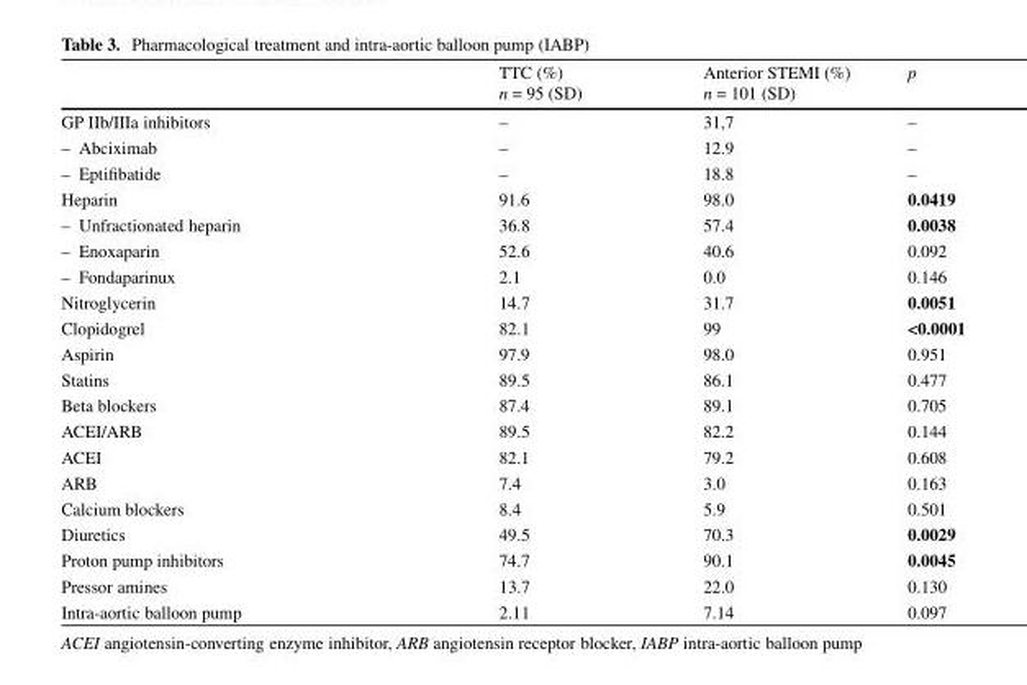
<table><thead><tr><td></td><td>TTC (%) n = 95 (SD)</td><td>Anterior STEMI (%) n = 101 (SD)</td><td>p</td></tr></thead><tbody><tr><td>GP IIb/IIIa inhibitors</td><td>–</td><td>31,7</td><td>–</td></tr><tr><td>– Abciximab</td><td>–</td><td>12.9</td><td>–</td></tr><tr><td>– Eptifibatide</td><td>–</td><td>18.8</td><td>–</td></tr><tr><td>Heparin</td><td>91.6</td><td>98.0</td><td>0.0419</td></tr><tr><td>– Unfractionated heparin</td><td>36.8</td><td>57.4</td><td>0.0038</td></tr><tr><td>– Enoxaparin</td><td>52.6</td><td>40.6</td><td>0.092</td></tr><tr><td>– Fondaparinux</td><td>2.1</td><td>0.0</td><td>0.146</td></tr><tr><td>Nitroglycerin</td><td>14.7</td><td>31.7</td><td>0.0051</td></tr><tr><td>Clopidogrel</td><td>82.1</td><td>99</td><td>&lt;0.0001</td></tr><tr><td>Aspirin</td><td>97.9</td><td>98.0</td><td>0.951</td></tr><tr><td>Statins</td><td>89.5</td><td>86.1</td><td>0.477</td></tr><tr><td>Beta blockers</td><td>87.4</td><td>89.1</td><td>0.705</td></tr><tr><td>ACEI/ARB</td><td>89.5</td><td>82.2</td><td>0.144</td></tr><tr><td>ACEI</td><td>82.1</td><td>79.2</td><td>0.608</td></tr><tr><td>ARB</td><td>7.4</td><td>3.0</td><td>0.163</td></tr><tr><td>Calcium blockers</td><td>8.4</td><td>5.9</td><td>0.501</td></tr><tr><td>Diuretics</td><td>49.5</td><td>70.3</td><td>0.0029</td></tr><tr><td>Proton pump inhibitors</td><td>74.7</td><td>90.1</td><td>0.0045</td></tr><tr><td>Pressor amines</td><td>13.7</td><td>22.0</td><td>0.130</td></tr><tr><td>Intra-aortic balloon pump</td><td>2.11</td><td>7.14</td><td>0.097</td></tr></tbody></table>